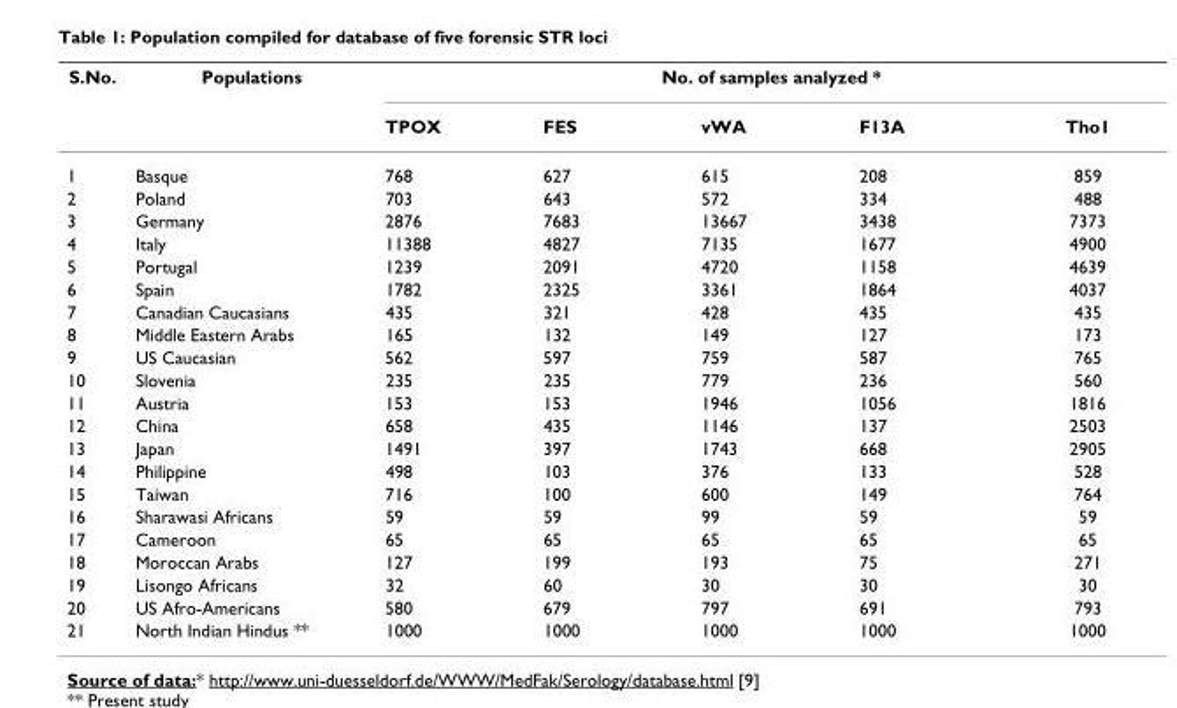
<table><thead><tr><td rowspan="2">S.No.</td><td rowspan="2">Populations</td><td colspan="5">No. of samples analyzed *</td></tr><tr><td>TPOX</td><td>FES</td><td>vWA</td><td>F13A</td><td>Tho1</td></tr></thead><tbody><tr><td>1</td><td>Basque</td><td>768</td><td>627</td><td>615</td><td>208</td><td>859</td></tr><tr><td>2</td><td>Poland</td><td>703</td><td>643</td><td>572</td><td>334</td><td>488</td></tr><tr><td>3</td><td>Germany</td><td>2876</td><td>7683</td><td>13667</td><td>3438</td><td>7373</td></tr><tr><td>4</td><td>Italy</td><td>11388</td><td>4827</td><td>7135</td><td>1677</td><td>4900</td></tr><tr><td>5</td><td>Portugal</td><td>1239</td><td>2091</td><td>4720</td><td>1158</td><td>4639</td></tr><tr><td>6</td><td>Spain</td><td>1782</td><td>2325</td><td>3361</td><td>1864</td><td>4037</td></tr><tr><td>7</td><td>Canadian Caucasians</td><td>435</td><td>321</td><td>428</td><td>435</td><td>435</td></tr><tr><td>8</td><td>Middle Eastern Arabs</td><td>165</td><td>132</td><td>149</td><td>127</td><td>173</td></tr><tr><td>9</td><td>US Caucasian</td><td>562</td><td>597</td><td>759</td><td>587</td><td>765</td></tr><tr><td>10</td><td>Slovenia</td><td>235</td><td>235</td><td>779</td><td>236</td><td>560</td></tr><tr><td>11</td><td>Austria</td><td>153</td><td>153</td><td>1946</td><td>1056</td><td>1816</td></tr><tr><td>12</td><td>China</td><td>658</td><td>435</td><td>1146</td><td>137</td><td>2503</td></tr><tr><td>13</td><td>Japan</td><td>1491</td><td>397</td><td>1743</td><td>668</td><td>2905</td></tr><tr><td>14</td><td>Philippine</td><td>498</td><td>103</td><td>376</td><td>133</td><td>528</td></tr><tr><td>15</td><td>Taiwan</td><td>716</td><td>100</td><td>600</td><td>149</td><td>764</td></tr><tr><td>16</td><td>Sharawasi Africans</td><td>59</td><td>59</td><td>99</td><td>59</td><td>59</td></tr><tr><td>17</td><td>Cameroon</td><td>65</td><td>65</td><td>65</td><td>65</td><td>65</td></tr><tr><td>18</td><td>Moroccan Arabs</td><td>127</td><td>199</td><td>193</td><td>75</td><td>271</td></tr><tr><td>19</td><td>Lisongo Africans</td><td>32</td><td>60</td><td>30</td><td>30</td><td>30</td></tr><tr><td>20</td><td>US Afro-Americans</td><td>580</td><td>679</td><td>797</td><td>691</td><td>793</td></tr><tr><td>21</td><td>North Indian Hindus **</td><td>1000</td><td>1000</td><td>1000</td><td>1000</td><td>1000</td></tr></tbody></table>